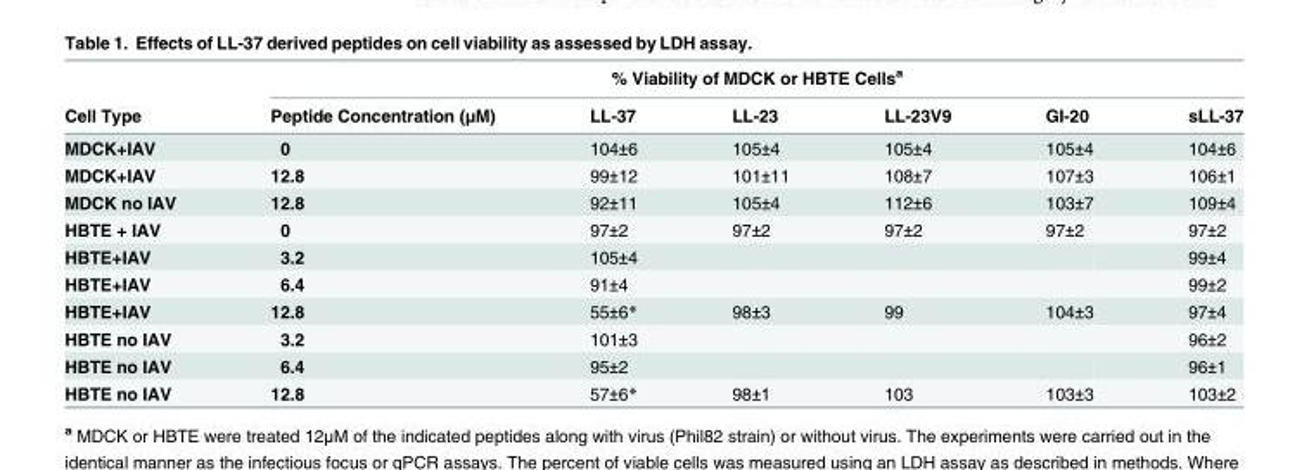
<table><thead><tr><td rowspan="2">Cell Type</td><td colspan="6">% Viability of MDCK or HBTE Cells<sup>a</sup></td></tr><tr><td>Peptide Concentration (μM)</td><td>LL-37</td><td>LL-23</td><td>LL-23V9</td><td>GI-20</td><td>sLL-37</td></tr></thead><tbody><tr><td>MDCK+IAV</td><td>0</td><td>104±6</td><td>105±4</td><td>105±4</td><td>105±4</td><td>104±6</td></tr><tr><td>MDCK+IAV</td><td>12.8</td><td>99±12</td><td>101±11</td><td>108±7</td><td>107±3</td><td>106±1</td></tr><tr><td>MDCK no IAV</td><td>12.8</td><td>92±11</td><td>105±4</td><td>112±6</td><td>103±7</td><td>109±4</td></tr><tr><td>HBTE + IAV</td><td>0</td><td>97±2</td><td>97±2</td><td>97±2</td><td>97±2</td><td>97±2</td></tr><tr><td>HBTE+IAV</td><td>3.2</td><td>105±4</td><td></td><td></td><td></td><td>99±4</td></tr><tr><td>HBTE+IAV</td><td>6.4</td><td>91±4</td><td></td><td></td><td></td><td>99±2</td></tr><tr><td>HBTE+IAV</td><td>12.8</td><td>55±6*</td><td>98±3</td><td>99</td><td>104±3</td><td>97±4</td></tr><tr><td>HBTE no IAV</td><td>3.2</td><td>101±3</td><td></td><td></td><td></td><td>96±2</td></tr><tr><td>HBTE no IAV</td><td>6.4</td><td>95±2</td><td></td><td></td><td></td><td>96±1</td></tr><tr><td>HBTE no IAV</td><td>12.8</td><td>57±6*</td><td>98±1</td><td>103</td><td>103±3</td><td>103±2</td></tr></tbody></table>